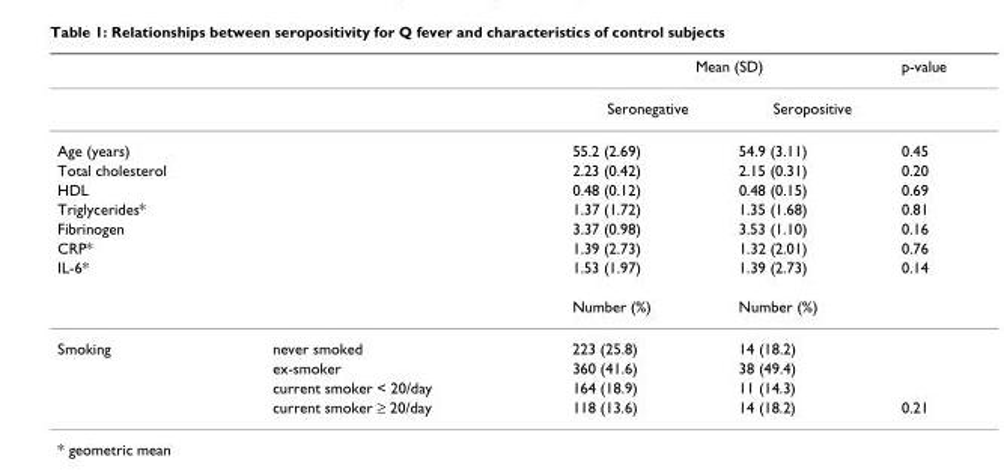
<table><thead><tr><td rowspan="2"></td><td rowspan="2"></td><td colspan="2">Mean (SD)</td><td rowspan="2">p-value</td></tr><tr><td>Seronegative</td><td>Seropositive</td></tr></thead><tbody><tr><td>Age (years)</td><td></td><td>55.2 (2.69)</td><td>54.9 (3.11)</td><td>0.45</td></tr><tr><td>Total cholesterol</td><td></td><td>2.23 (0.42)</td><td>2.15 (0.31)</td><td>0.20</td></tr><tr><td>HDL</td><td></td><td>0.48 (0.12)</td><td>0.48 (0.15)</td><td>0.69</td></tr><tr><td>Triglycerides*</td><td></td><td>1.37 (1.72)</td><td>1.35 (1.68)</td><td>0.81</td></tr><tr><td>Fibrinogen</td><td></td><td>3.37 (0.98)</td><td>3.53 (1.10)</td><td>0.16</td></tr><tr><td>CRP*</td><td></td><td>1.39 (2.73)</td><td>1.32 (2.01)</td><td>0.76</td></tr><tr><td rowspan="2">IL-6*</td><td></td><td>1.53 (1.97)</td><td>1.39 (2.73)</td><td>0.14</td></tr><tr><td></td><td>Number (%)</td><td>Number (%)</td><td></td></tr><tr><td rowspan="4">Smoking</td><td>never smoked</td><td>223 (25.8)</td><td>14 (18.2)</td><td></td></tr><tr><td>ex-smoker</td><td>360 (41.6)</td><td>38 (49.4)</td><td></td></tr><tr><td>current smoker &lt; 20/day</td><td>164 (18.9)</td><td>11 (14.3)</td><td></td></tr><tr><td>current smoker ≥ 20/day</td><td>118 (13.6)</td><td>14 (18.2)</td><td>0.21</td></tr></tbody></table>